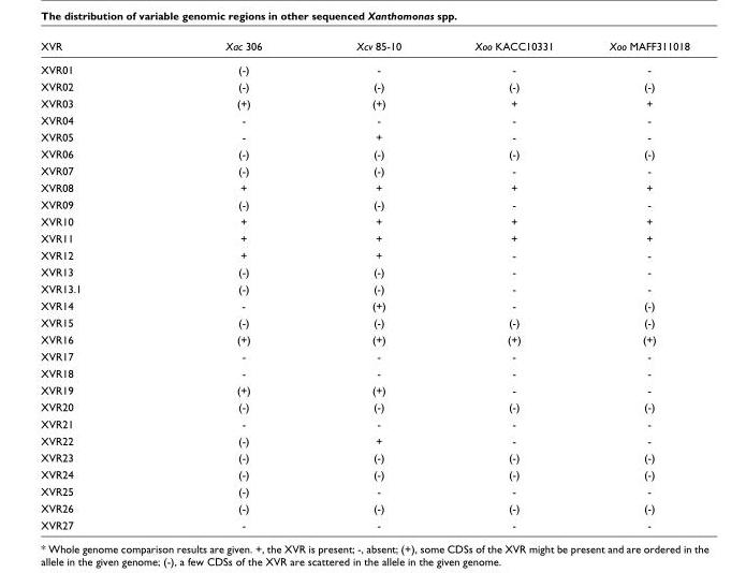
<table><thead><tr><td>XVR</td><td>Xac 306</td><td>Xcv 85-10</td><td>Xoo KACC10331</td><td>Xoo MAFF311018</td></tr></thead><tbody><tr><td>XVR01</td><td>(-)</td><td>-</td><td>-</td><td>-</td></tr><tr><td>XVR02</td><td>(-)</td><td>(-)</td><td>(-)</td><td>(-)</td></tr><tr><td>XVR03</td><td>(+)</td><td>(+)</td><td>+</td><td>+</td></tr><tr><td>XVR04</td><td>-</td><td>-</td><td>-</td><td>-</td></tr><tr><td>XVR05</td><td>-</td><td>+</td><td>-</td><td>-</td></tr><tr><td>XVR06</td><td>(-)</td><td>(-)</td><td>(-)</td><td>(-)</td></tr><tr><td>XVR07</td><td>(-)</td><td>(-)</td><td>-</td><td>-</td></tr><tr><td>XVR08</td><td>+</td><td>+</td><td>+</td><td>+</td></tr><tr><td>XVR09</td><td>(-)</td><td>(-)</td><td>-</td><td>-</td></tr><tr><td>XVR10</td><td>+</td><td>+</td><td>+</td><td>+</td></tr><tr><td>XVR11</td><td>+</td><td>+</td><td>+</td><td>+</td></tr><tr><td>XVR12</td><td>+</td><td>+</td><td>-</td><td>-</td></tr><tr><td>XVR13</td><td>(-)</td><td>(-)</td><td>-</td><td>-</td></tr><tr><td>XVR13.1</td><td>(-)</td><td>(-)</td><td>-</td><td>-</td></tr><tr><td>XVR14</td><td>-</td><td>(+)</td><td>-</td><td>(-)</td></tr><tr><td>XVR15</td><td>(-)</td><td>(-)</td><td>(-)</td><td>(-)</td></tr><tr><td>XVR16</td><td>(+)</td><td>(+)</td><td>(+)</td><td>(+)</td></tr><tr><td>XVR17</td><td>-</td><td>-</td><td>-</td><td>-</td></tr><tr><td>XVR18</td><td>-</td><td>-</td><td>-</td><td>-</td></tr><tr><td>XVR19</td><td>(+)</td><td>(+)</td><td>-</td><td>-</td></tr><tr><td>XVR20</td><td>(-)</td><td>(-)</td><td>(-)</td><td>(-)</td></tr><tr><td>XVR21</td><td>-</td><td>-</td><td>-</td><td>-</td></tr><tr><td>XVR22</td><td>(-)</td><td>+</td><td>-</td><td>-</td></tr><tr><td>XVR23</td><td>(-)</td><td>(-)</td><td>(-)</td><td>(-)</td></tr><tr><td>XVR24</td><td>(-)</td><td>(-)</td><td>(-)</td><td>(-)</td></tr><tr><td>XVR25</td><td>(-)</td><td>-</td><td>-</td><td>-</td></tr><tr><td>XVR26</td><td>(-)</td><td>(-)</td><td>(-)</td><td>(-)</td></tr><tr><td>XVR27</td><td>-</td><td>-</td><td>-</td><td>-</td></tr></tbody></table>